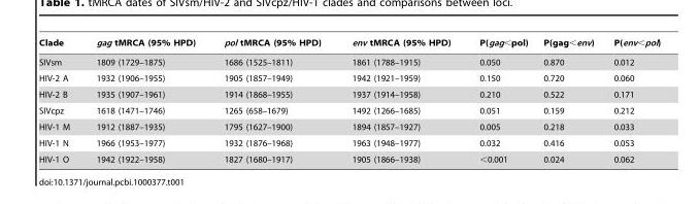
<table><thead><tr><td>Clade</td><td>gag tMRCA (95% HPD)</td><td>pol tMRCA (95% HPD)</td><td>env tMRCA (95% HPD)</td><td>P(gag&lt;pol)</td><td>P(gag&lt;env)</td><td>P(env&lt;pol)</td></tr></thead><tbody><tr><td>SIVsm</td><td>1809 (1729–1875)</td><td>1686 (1525–1811)</td><td>1861 (1788–1915)</td><td>0.050</td><td>0.870</td><td>0.012</td></tr><tr><td>HIV-2 A</td><td>1932 (1906–1955)</td><td>1905 (1857–1949)</td><td>1942 (1921–1959)</td><td>0.150</td><td>0.720</td><td>0.060</td></tr><tr><td>HIV-2 B</td><td>1935 (1907–1961)</td><td>1914 (1868–1955)</td><td>1937 (1914–1958)</td><td>0.210</td><td>0.522</td><td>0.171</td></tr><tr><td>SIVcpz</td><td>1618 (1471–1746)</td><td>1265 (658–1679)</td><td>1492 (1266–1685)</td><td>0.051</td><td>0.159</td><td>0.212</td></tr><tr><td>HIV-1 M</td><td>1912 (1887–1935)</td><td>1795 (1627–1900)</td><td>1894 (1857–1927)</td><td>0.005</td><td>0.218</td><td>0.033</td></tr><tr><td>HIV-1 N</td><td>1966 (1953–1977)</td><td>1932 (1876–1968)</td><td>1963 (1948–1977)</td><td>0.032</td><td>0.416</td><td>0.053</td></tr><tr><td>HIV-1 O</td><td>1942 (1922–1958)</td><td>1827 (1680–1917)</td><td>1905 (1866–1938)</td><td>&lt;0.001</td><td>0.024</td><td>0.062</td></tr></tbody></table>